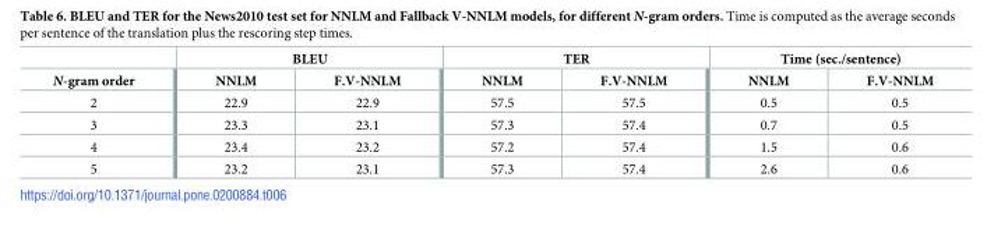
<table><thead><tr><td rowspan="2">N-gram order</td><td colspan="2">BLEU</td><td colspan="2">TER</td><td colspan="2">Time (sec./sentence)</td></tr><tr><td>NNLM</td><td>F.V-NNLM</td><td>NNLM</td><td>F.V-NNLM</td><td>NNLM</td><td>F.V-NNLM</td></tr></thead><tbody><tr><td>2</td><td>22.9</td><td>22.9</td><td>57.5</td><td>57.5</td><td>0.5</td><td>0.5</td></tr><tr><td>3</td><td>23.3</td><td>23.1</td><td>57.3</td><td>57.4</td><td>0.7</td><td>0.5</td></tr><tr><td>4</td><td>23.4</td><td>23.2</td><td>57.2</td><td>57.4</td><td>1.5</td><td>0.6</td></tr><tr><td>5</td><td>23.2</td><td>23.1</td><td>57.3</td><td>57.4</td><td>2.6</td><td>0.6</td></tr></tbody></table>